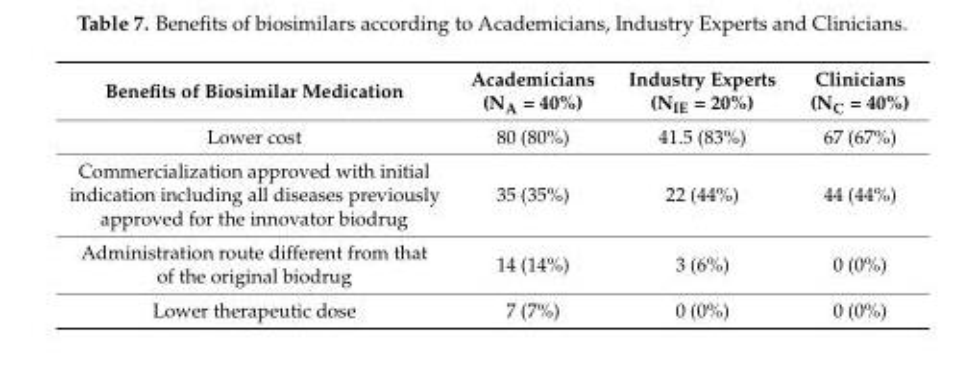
<table><thead><tr><td>Benefits of Biosimilar Medication</td><td>Academicians (N<sub>A</sub> = 40%)</td><td>Industry Experts (N<sub>IE</sub> = 20%)</td><td>Clinicians (N<sub>C</sub> = 40%)</td></tr></thead><tbody><tr><td>Lower cost</td><td>80 (80%)</td><td>41.5 (83%)</td><td>67 (67%)</td></tr><tr><td>Commercialization approved with initial indication including all diseases previously approved for the innovator biodrug</td><td>35 (35%)</td><td>22 (44%)</td><td>44 (44%)</td></tr><tr><td>Administration route different from that of the original biodrug</td><td>14 (14%)</td><td>3 (6%)</td><td>0 (0%)</td></tr><tr><td>Lower therapeutic dose</td><td>7 (7%)</td><td>0 (0%)</td><td>0 (0%)</td></tr></tbody></table>